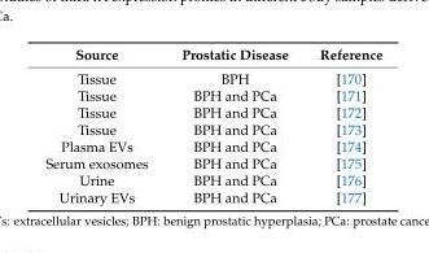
<table><thead><tr><td>Source</td><td>Prostatic Disease</td><td>Reference</td></tr></thead><tbody><tr><td>Tissue</td><td>BPH</td><td>[170]</td></tr><tr><td>Tissue</td><td>BPH and PCa</td><td>[171]</td></tr><tr><td>Tissue</td><td>BPH and PCa</td><td>[172]</td></tr><tr><td>Tissue</td><td>BPH and PCa</td><td>[173]</td></tr><tr><td>Plasma EVs</td><td>BPH and PCa</td><td>[174]</td></tr><tr><td>Serum exosomes</td><td>BPH and PCa</td><td>[175]</td></tr><tr><td>Urine</td><td>BPH and PCa</td><td>[176]</td></tr><tr><td>Urinary EVs</td><td>BPH and PCa</td><td>[177]</td></tr></tbody></table>